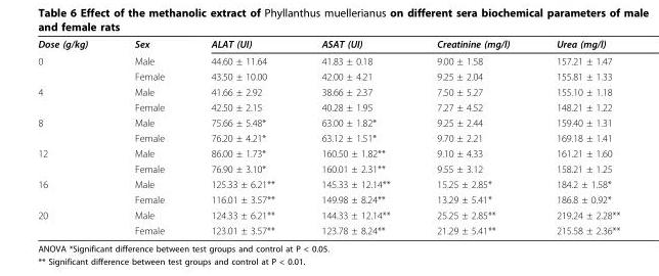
<table><tbody><tr><td>Dose (g/kg)</td><td>Sex</td><td>ALAT (UI)</td><td>ASAT (UI)</td><td>Creatinine (mg/l)</td><td>Urea (mg/l)</td></tr><tr><td rowspan="2">0</td><td>Male</td><td>44.60 ± 11.64</td><td>41.83 ± 0.18</td><td>9.00 ± 1.58</td><td>157.21 ± 1.47</td></tr><tr><td>Female</td><td>43.50 ± 10.00</td><td>42.00 ± 4.21</td><td>9.25 ± 2.04</td><td>155.81 ± 1.33</td></tr><tr><td rowspan="2">4</td><td>Male</td><td>41.66 ± 2.92</td><td>38.66 ± 2.37</td><td>7.50 ± 5.27</td><td>155.10 ± 1.18</td></tr><tr><td>Female</td><td>42.50 ± 2.15</td><td>40.28 ± 1.95</td><td>7.27 ± 4.52</td><td>148.21 ± 1.22</td></tr><tr><td rowspan="2">8</td><td>Male</td><td>75.66 ± 5.48*</td><td>63.00 ± 1.82*</td><td>9.25 ± 2.44</td><td>159.40 ± 1.31</td></tr><tr><td>Female</td><td>76.20 ± 4.21*</td><td>63.12 ± 1.51*</td><td>9.70 ± 2.21</td><td>169.18 ± 1.41</td></tr><tr><td rowspan="2">12</td><td>Male</td><td>86.00 ± 1.73*</td><td>160.50 ± 1.82**</td><td>9.10 ± 4.33</td><td>161.21 ± 1.60</td></tr><tr><td>Female</td><td>76.90 ± 3.10*</td><td>160.01 ± 2.31**</td><td>9.55 ± 3.12</td><td>158.21 ± 1.25</td></tr><tr><td rowspan="2">16</td><td>Male</td><td>125.33 ± 6.21**</td><td>145.33 ± 12.14**</td><td>15.25 ± 2.85*</td><td>184.2 ± 1.58*</td></tr><tr><td>Female</td><td>116.01 ± 3.57**</td><td>149.98 ± 8.24**</td><td>13.29 ± 5.41*</td><td>186.8 ± 0.92*</td></tr><tr><td rowspan="2">20</td><td>Male</td><td>124.33 ± 6.21**</td><td>144.33 ± 12.14**</td><td>25.25 ± 2.85**</td><td>219.24 ± 2.28**</td></tr><tr><td>Female</td><td>123.01 ± 3.57**</td><td>123.78 ± 8.24**</td><td>21.29 ± 5.41**</td><td>215.58 ± 2.36**</td></tr></tbody></table>